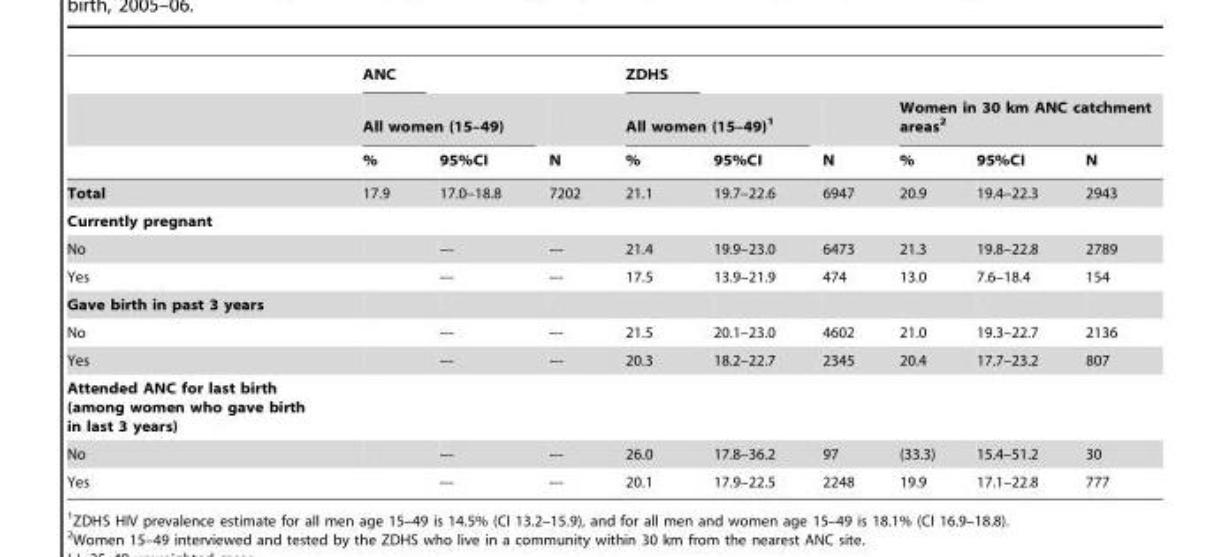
<table><thead><tr><td rowspan="3"></td><td>ANC</td><td></td><td rowspan="3">N</td><td>ZDHS</td><td></td><td rowspan="3">N</td><td></td><td></td><td></td></tr><tr><td colspan="2">All women (15–49)</td><td colspan="2">All women (15–49)<sup>1</sup></td><td colspan="3">Women in 30 km ANC catchment areas<sup>2</sup></td></tr><tr><td>%</td><td>95%CI</td><td>%</td><td>95%CI</td><td>%</td><td>95%CI</td><td>N</td></tr></thead><tbody><tr><td>Total</td><td>17.9</td><td>17.0–18.8</td><td>7202</td><td>21.1</td><td>19.7–22.6</td><td>6947</td><td>20.9</td><td>19.4–22.3</td><td>2943</td></tr><tr><td colspan="10">Currently pregnant</td></tr><tr><td>No</td><td></td><td>---</td><td>---</td><td>21.4</td><td>19.9–23.0</td><td>6473</td><td>21.3</td><td>19.8–22.8</td><td>2789</td></tr><tr><td>Yes</td><td></td><td>---</td><td>---</td><td>17.5</td><td>13.9–21.9</td><td>474</td><td>13.0</td><td>7.6–18.4</td><td>154</td></tr><tr><td colspan="10">Gave birth in past 3 years</td></tr><tr><td>No</td><td></td><td>---</td><td>---</td><td>21.5</td><td>20.1–23.0</td><td>4602</td><td>21.0</td><td>19.3–22.7</td><td>2136</td></tr><tr><td>Yes</td><td></td><td>---</td><td>---</td><td>20.3</td><td>18.2–22.7</td><td>2345</td><td>20.4</td><td>17.7–23.2</td><td>807</td></tr><tr><td colspan="10">Attended ANC for last birth (among women who gave birth in last 3 years)</td></tr><tr><td>No</td><td></td><td>---</td><td>---</td><td>26.0</td><td>17.8–36.2</td><td>97</td><td>(33.3)</td><td>15.4–51.2</td><td>30</td></tr><tr><td>Yes</td><td></td><td>---</td><td>---</td><td>20.1</td><td>17.9–22.5</td><td>2248</td><td>19.9</td><td>17.1–22.8</td><td>777</td></tr></tbody></table>